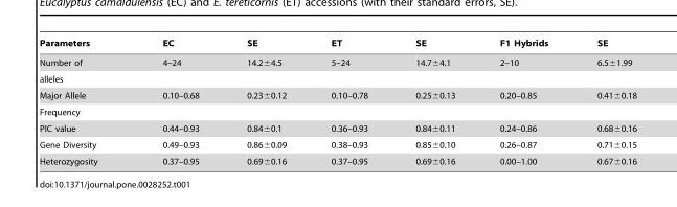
<table><thead><tr><td>Parameters</td><td>EC</td><td>SE</td><td>ET</td><td>SE</td><td>F1 Hybrids</td><td>SE</td></tr></thead><tbody><tr><td>Number of</td><td>4–24</td><td>14.2±4.5</td><td>5–24</td><td>14.7±4.1</td><td>2–10</td><td>6.5±1.99</td></tr><tr><td colspan="7">alleles</td></tr><tr><td>Major Allele</td><td>0.10–0.68</td><td>0.23±0.12</td><td>0.10–0.78</td><td>0.25±0.13</td><td>0.20–0.85</td><td>0.41±0.18</td></tr><tr><td colspan="7">Frequency</td></tr><tr><td>PIC value</td><td>0.44–0.93</td><td>0.84±0.1</td><td>0.36–0.93</td><td>0.84±0.11</td><td>0.24–0.86</td><td>0.68±0.16</td></tr><tr><td>Gene Diversity</td><td>0.49–0.93</td><td>0.86±0.09</td><td>0.38–0.93</td><td>0.85±0.10</td><td>0.26–0.87</td><td>0.71±0.15</td></tr><tr><td>Heterozygosity</td><td>0.37–0.95</td><td>0.69±0.16</td><td>0.37–0.95</td><td>0.69±0.16</td><td>0.00–1.00</td><td>0.67±0.16</td></tr></tbody></table>